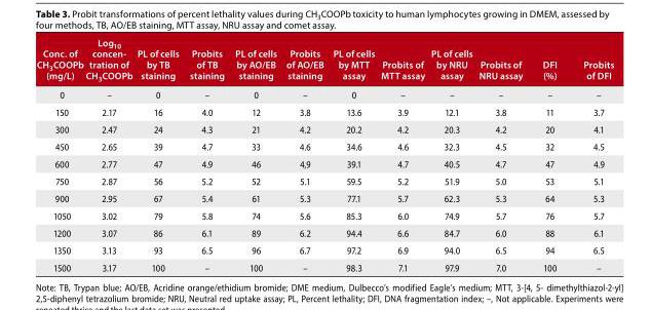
<table><thead><tr><td>Conc. of CH<sub>3</sub>COOPb (mg/L)</td><td>Log10 concen- tration of CH3COOPb</td><td>PL of cells by TB staining</td><td>Probits of TB staining</td><td>PL of cells by AO/EB staining</td><td>Probits of AO/EB staining</td><td>PL of cells by MTT assay</td><td>Probits of MTT assay</td><td>PL of cells by NRU assay</td><td>Probits of NRU assay</td><td>DFI (%)</td><td>Probits of DFI</td></tr></thead><tbody><tr><td>0</td><td>–</td><td>0</td><td>–</td><td>0</td><td>–</td><td>0</td><td>–</td><td>–</td><td>–</td><td>–</td><td>–</td></tr><tr><td>150</td><td>2.17</td><td>16</td><td>4.0</td><td>12</td><td>3.8</td><td>13.6</td><td>3.9</td><td>12.1</td><td>3.8</td><td>11</td><td>3.7</td></tr><tr><td>300</td><td>2.47</td><td>24</td><td>4.3</td><td>21</td><td>4.2</td><td>20.2</td><td>4.2</td><td>20.3</td><td>4.2</td><td>20</td><td>4.1</td></tr><tr><td>450</td><td>2.65</td><td>39</td><td>4.7</td><td>33</td><td>4.6</td><td>34.6</td><td>4.6</td><td>32.3</td><td>4.5</td><td>32</td><td>4.5</td></tr><tr><td>600</td><td>2.77</td><td>47</td><td>4.9</td><td>46</td><td>4,9</td><td>39.1</td><td>4.7</td><td>40.5</td><td>4.7</td><td>47</td><td>4.9</td></tr><tr><td>750</td><td>2.87</td><td>56</td><td>5.2</td><td>52</td><td>5.1</td><td>59.5</td><td>5.2</td><td>51.9</td><td>5.0</td><td>53</td><td>5.1</td></tr><tr><td>900</td><td>2.95</td><td>67</td><td>5.4</td><td>61</td><td>5.3</td><td>77.1</td><td>5.7</td><td>62.3</td><td>5.3</td><td>64</td><td>5.3</td></tr><tr><td>1050</td><td>3.02</td><td>79</td><td>5.8</td><td>74</td><td>5.6</td><td>85.3</td><td>6.0</td><td>74.9</td><td>5.7</td><td>76</td><td>5.7</td></tr><tr><td>1200</td><td>3.07</td><td>86</td><td>6.1</td><td>89</td><td>6.2</td><td>94.4</td><td>6.6</td><td>84.7</td><td>6.0</td><td>88</td><td>6.1</td></tr><tr><td>1350</td><td>3.13</td><td>93</td><td>6.5</td><td>96</td><td>6.7</td><td>97.2</td><td>6.9</td><td>94.0</td><td>6.5</td><td>94</td><td>6.5</td></tr><tr><td>1500</td><td>3.17</td><td>100</td><td>–</td><td>100</td><td>–</td><td>98.3</td><td>7.1</td><td>97.9</td><td>7.0</td><td>100</td><td>–</td></tr></tbody></table>